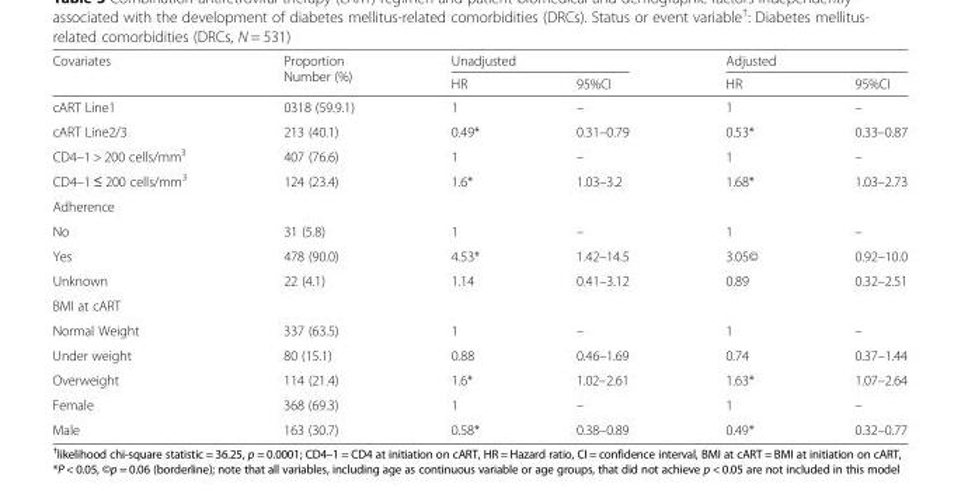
<table><thead><tr><td rowspan="2">Covariates</td><td rowspan="2">Proportion Number (%)</td><td colspan="2">Unadjusted</td><td colspan="2">Adjusted</td></tr><tr><td>HR</td><td>95%CI</td><td>HR</td><td>95%CI</td></tr></thead><tbody><tr><td>cART Line1</td><td>0318 (59.9.1)</td><td>1</td><td>–</td><td>1</td><td>–</td></tr><tr><td>cART Line2/3</td><td>213 (40.1)</td><td>0.49*</td><td>0.31–0.79</td><td>0.53*</td><td>0.33–0.87</td></tr><tr><td>CD4–1 &gt; 200 cells/mm<sup>3</sup></td><td>407 (76.6)</td><td>1</td><td>–</td><td>1</td><td>–</td></tr><tr><td>CD4–1 ≤ 200 cells/mm<sup>3</sup></td><td>124 (23.4)</td><td>1.6*</td><td>1.03–3.2</td><td>1.68*</td><td>1.03–2.73</td></tr><tr><td colspan="6">Adherence</td></tr><tr><td>No</td><td>31 (5.8)</td><td>1</td><td>–</td><td>1</td><td>–</td></tr><tr><td>Yes</td><td>478 (90.0)</td><td>4.53*</td><td>1.42–14.5</td><td>3.05©</td><td>0.92–10.0</td></tr><tr><td>Unknown</td><td>22 (4.1)</td><td>1.14</td><td>0.41–3.12</td><td>0.89</td><td>0.32–2.51</td></tr><tr><td colspan="6">BMI at cART</td></tr><tr><td>Normal Weight</td><td>337 (63.5)</td><td>1</td><td>–</td><td>1</td><td>–</td></tr><tr><td>Under weight</td><td>80 (15.1)</td><td>0.88</td><td>0.46–1.69</td><td>0.74</td><td>0.37–1.44</td></tr><tr><td>Overweight</td><td>114 (21.4)</td><td>1.6*</td><td>1.02–2.61</td><td>1.63*</td><td>1.07–2.64</td></tr><tr><td>Female</td><td>368 (69.3)</td><td>1</td><td>–</td><td>1</td><td>–</td></tr><tr><td>Male</td><td>163 (30.7)</td><td>0.58*</td><td>0.38–0.89</td><td>0.49*</td><td>0.32–0.77</td></tr></tbody></table>